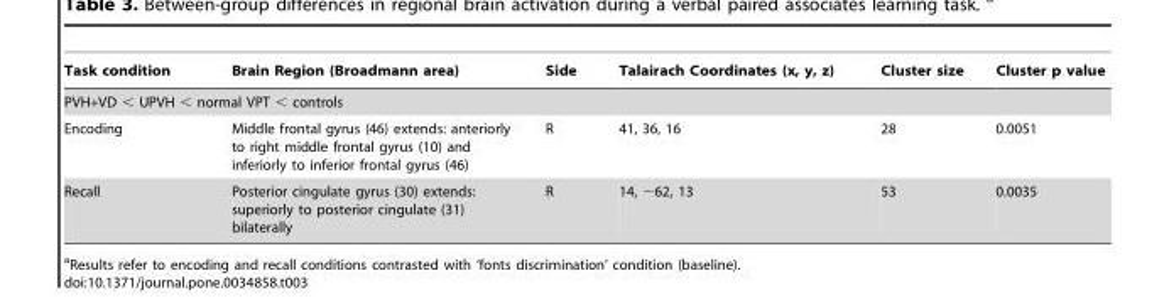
<table><thead><tr><td>Task condition</td><td>Brain Region (Broadmann area)</td><td>Side</td><td>Talairach Coordinates (x, y, z)</td><td>Cluster size</td><td>Cluster p value</td></tr></thead><tbody><tr><td colspan="6">PVH+VD &lt; UPVH &lt; normal VPT &lt; controls</td></tr><tr><td>Encoding</td><td>Middle frontal gyrus (46) extends: anteriorly to right middle frontal gyrus (10) and inferiorly to inferior frontal gyrus (46)</td><td>R</td><td>41, 36, 16</td><td>28</td><td>0.0051</td></tr><tr><td>Recall</td><td>Posterior cingulate gyrus (30) extends: superiorly to posterior cingulate (31) bilaterally</td><td>R</td><td>14, −62, 13</td><td>53</td><td>0.0035</td></tr></tbody></table>